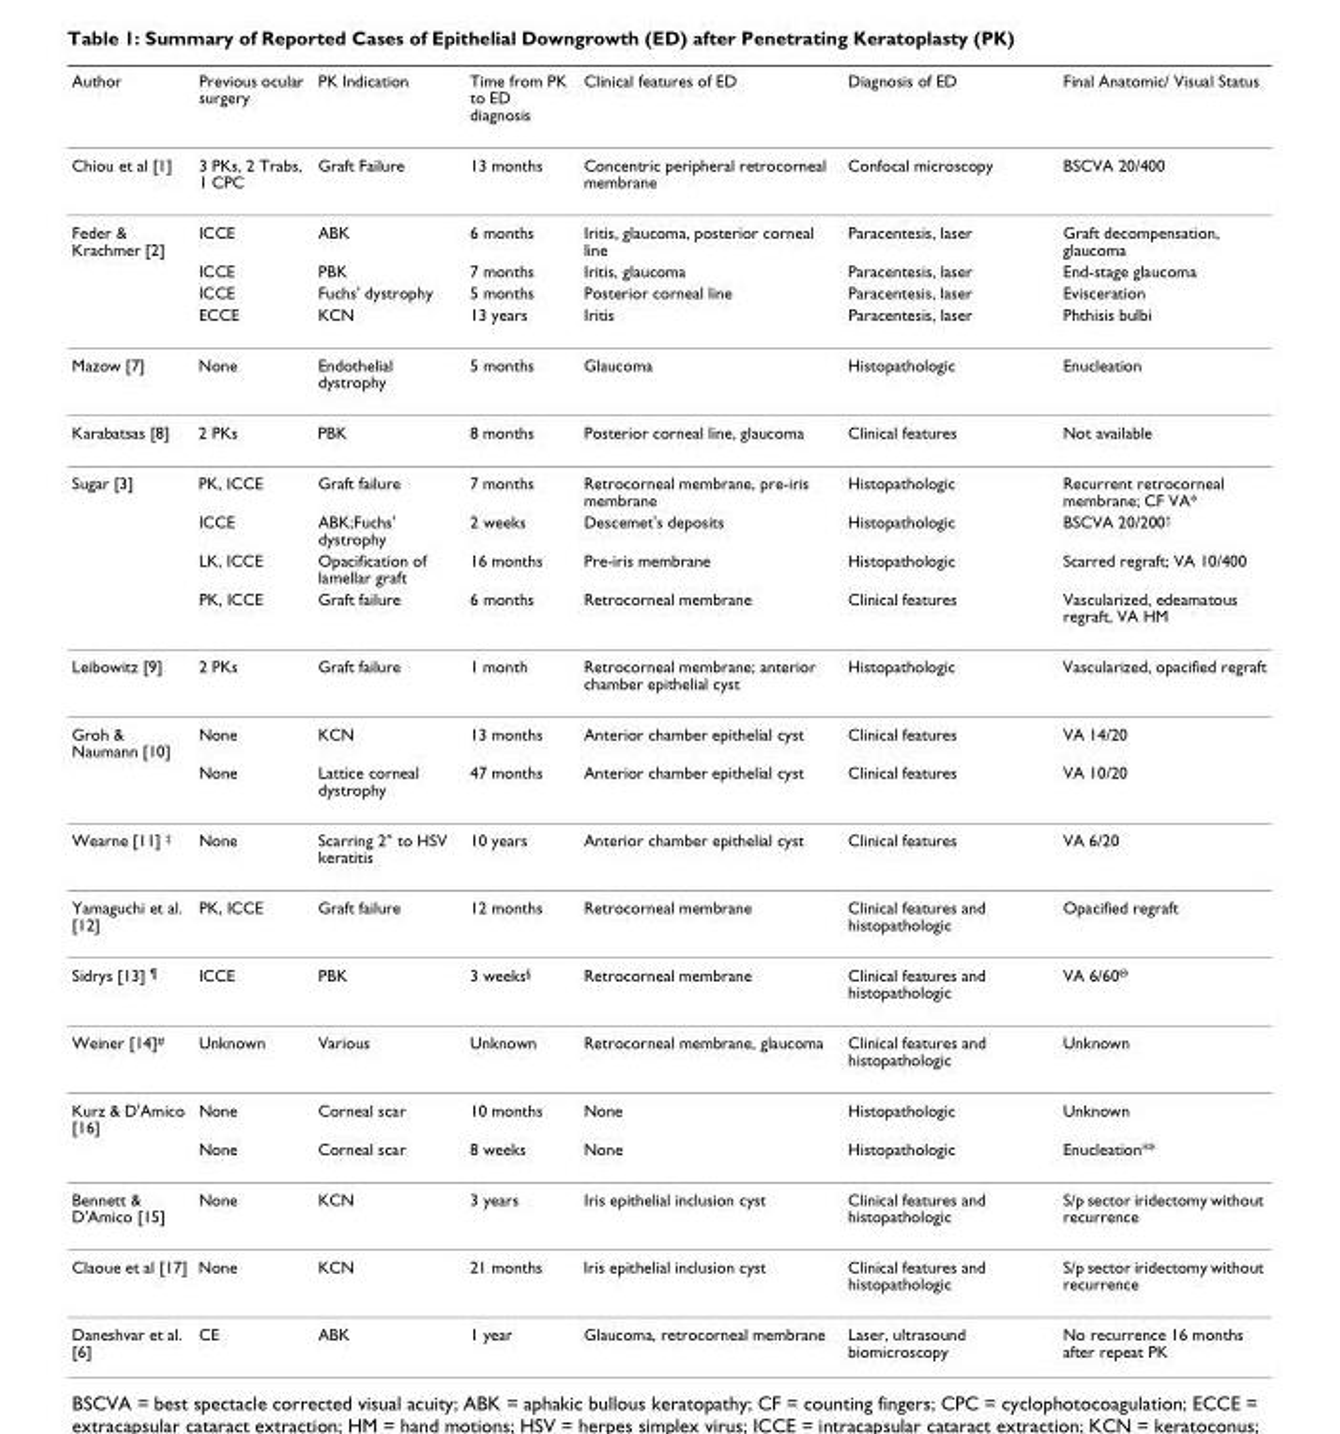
<table><thead><tr><td>Author</td><td>Previous ocular surgery</td><td>PK Indication</td><td>Time from PK to ED diagnosis</td><td>Clinical features of ED</td><td>Diagnosis of ED</td><td>Final Anatomic/ Visual Status</td></tr></thead><tbody><tr><td>Chiou et al [1]</td><td>3 PKs, 2 Trabs, 1 CPC</td><td>Graft Failure</td><td>13 months</td><td>Concentric peripheral retrocorneal membrane</td><td>Confocal microscopy</td><td>BSCVA 20/400</td></tr><tr><td rowspan="4">Feder &amp; Krachmer [2]</td><td>ICCE</td><td>ABK</td><td>6 months</td><td>Iritis, glaucoma, posterior corneal line</td><td>Paracentesis, laser</td><td>Graft decompensation, glaucoma</td></tr><tr><td>ICCE</td><td>PBK</td><td>7 months</td><td>Iritis, glaucoma</td><td>Paracentesis, laser</td><td>End-stage glaucoma</td></tr><tr><td>ICCE</td><td>Fuchs&#x27; dystrophy</td><td>5 months</td><td>Posterior corneal line</td><td>Paracentesis, laser</td><td>Evisceration</td></tr><tr><td>ECCE</td><td>KCN</td><td>13 years</td><td>Iritis</td><td>Paracentesis, laser</td><td>Phthisis bulbi</td></tr><tr><td>Mazow [7]</td><td>None</td><td>Endothelial dystrophy</td><td>5 months</td><td>Glaucoma</td><td>Histopathologic</td><td>Enucleation</td></tr><tr><td>Karabatsas [8]</td><td>2 PKs</td><td>PBK</td><td>8 months</td><td>Posterior corneal line, glaucoma</td><td>Clinical features</td><td>Not available</td></tr><tr><td rowspan="4">Sugar [3]</td><td>PK, ICCE</td><td>Graft failure</td><td>7 months</td><td>Retrocorneal membrane, pre-iris membrane</td><td>Histopathologic</td><td>Recurrent retrocorneal membrane; CF VA*</td></tr><tr><td>ICCE</td><td>ABK;Fuchs&#x27; dystrophy</td><td>2 weeks</td><td>Descemet&#x27;s deposits</td><td>Histopathologic</td><td>BSCVA 20/200†</td></tr><tr><td>LK, ICCE</td><td>Opacification of lamellar graft</td><td>16 months</td><td>Pre-iris membrane</td><td>Histopathologic</td><td>Scarred regraft; VA 10/400</td></tr><tr><td>PK, ICCE</td><td>Graft failure</td><td>6 months</td><td>Retrocorneal membrane</td><td>Clinical features</td><td>Vascularized, edeamatous regraft, VA HM</td></tr><tr><td>Leibowitz [9]</td><td>2 PKs</td><td>Graft failure</td><td>1 month</td><td>Retrocorneal membrane; anterior chamber epithelial cyst</td><td>Histopathologic</td><td>Vascularized, opacified regraft</td></tr><tr><td rowspan="2">Groh &amp; Naumann [10]</td><td>None</td><td>KCN</td><td>13 months</td><td>Anterior chamber epithelial cyst</td><td>Clinical features</td><td>VA 14/20</td></tr><tr><td>None</td><td>Lattice corneal dystrophy</td><td>47 months</td><td>Anterior chamber epithelial cyst</td><td>Clinical features</td><td>VA 10/20</td></tr><tr><td>Wearne [11] ‡</td><td>None</td><td>Scarring 2° to HSV keratitis</td><td>10 years</td><td>Anterior chamber epithelial cyst</td><td>Clinical features</td><td>VA 6/20</td></tr><tr><td>Yamaguchi et al. [12]</td><td>PK, ICCE</td><td>Graft failure</td><td>12 months</td><td>Retrocorneal membrane</td><td>Clinical features and histopathologic</td><td>Opacified regraft</td></tr><tr><td>Sidrys [13] ¶</td><td>ICCE</td><td>PBK</td><td>3 weeks§</td><td>Retrocorneal membrane</td><td>Clinical features and histopathologic</td><td>VA 6/60Θ</td></tr><tr><td>Weiner [14]#</td><td>Unknown</td><td>Various</td><td>Unknown</td><td>Retrocorneal membrane, glaucoma</td><td>Clinical features and histopathologic</td><td>Unknown</td></tr><tr><td rowspan="2">Kurz &amp; D&#x27;Amico [16]</td><td>None</td><td>Corneal scar</td><td>10 months</td><td>None</td><td>Histopathologic</td><td>Unknown</td></tr><tr><td>None</td><td>Corneal scar</td><td>8 weeks</td><td>None</td><td>Histopathologic</td><td>Enucleation**</td></tr><tr><td>Bennett &amp; D&#x27;Amico [15]</td><td>None</td><td>KCN</td><td>3 years</td><td>Iris epithelial inclusion cyst</td><td>Clinical features and histopathologic</td><td>S/p sector iridectomy without recurrence</td></tr><tr><td>Claoue et al [17]</td><td>None</td><td>KCN</td><td>21 months</td><td>Iris epithelial inclusion cyst</td><td>Clinical features and histopathologic</td><td>S/p sector iridectomy without recurrence</td></tr><tr><td>Daneshvar et al. [6]</td><td>CE</td><td>ABK</td><td>1 year</td><td>Glaucoma, retrocorneal membrane</td><td>Laser, ultrasound biomicroscopy</td><td>No recurrence 16 months after repeat PK</td></tr></tbody></table>